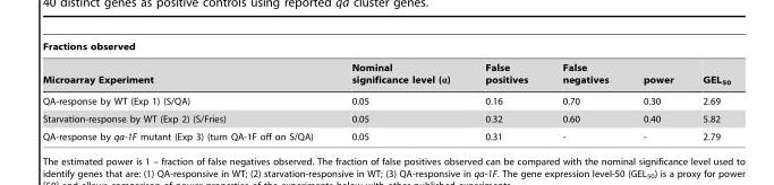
<table><thead><tr><td colspan="6">Fractions observed</td></tr><tr><td>Microarray Experiment</td><td>Nominal significance level (α)</td><td>False positives</td><td>False negatives</td><td>power</td><td>GEL<sub>50</sub></td></tr></thead><tbody><tr><td>QA-response by WT (Exp 1) (S/QA)</td><td>0.05</td><td>0.16</td><td>0.70</td><td>0.30</td><td>2.69</td></tr><tr><td>Starvation-response by WT (Exp 2) (S/Fries)</td><td>0.05</td><td>0.32</td><td>0.60</td><td>0.40</td><td>5.82</td></tr><tr><td>QA-response by qa-1F mutant (Exp 3) (turn QA-1F off on S/QA)</td><td>0.05</td><td>0.31</td><td>-</td><td>-</td><td>2.79</td></tr></tbody></table>